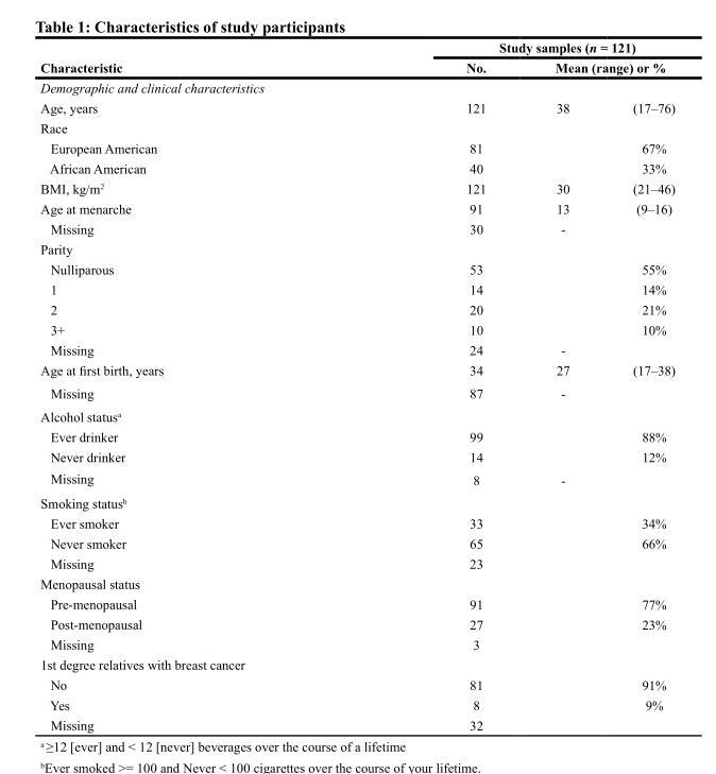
<table><thead><tr><td rowspan="3">Characteristic Demographic and clinical characteristics</td><td colspan="3">Study samples (n = 121)</td></tr><tr><td rowspan="2">No.</td><td colspan="2">Mean (range) or %</td></tr><tr><td></td><td></td></tr></thead><tbody><tr><td>Age, years</td><td>121</td><td>38</td><td>(17–76)</td></tr><tr><td colspan="4">Race</td></tr><tr><td>European American</td><td>81</td><td></td><td>67%</td></tr><tr><td>African American</td><td>40</td><td></td><td>33%</td></tr><tr><td>BMI, kg/m<sup>2</sup></td><td>121</td><td>30</td><td>(21–46)</td></tr><tr><td>Age at menarche</td><td>91</td><td>13</td><td>(9–16)</td></tr><tr><td>Missing</td><td>30</td><td>-</td><td></td></tr><tr><td colspan="4">Parity</td></tr><tr><td>Nulliparous</td><td>53</td><td></td><td>55%</td></tr><tr><td>1</td><td>14</td><td></td><td>14%</td></tr><tr><td>2</td><td>20</td><td></td><td>21%</td></tr><tr><td>3+</td><td>10</td><td></td><td>10%</td></tr><tr><td>Missing</td><td>24</td><td>-</td><td></td></tr><tr><td>Age at first birth, years</td><td>34</td><td>27</td><td>(17–38)</td></tr><tr><td>Missing</td><td>87</td><td>-</td><td></td></tr><tr><td colspan="4">Alcohol status<sup>a</sup></td></tr><tr><td>Ever drinker</td><td>99</td><td></td><td>88%</td></tr><tr><td>Never drinker</td><td>14</td><td></td><td>12%</td></tr><tr><td>Missing</td><td>8</td><td>-</td><td></td></tr><tr><td colspan="4">Smoking status<sup>b</sup></td></tr><tr><td>Ever smoker</td><td>33</td><td></td><td>34%</td></tr><tr><td>Never smoker</td><td>65</td><td></td><td>66%</td></tr><tr><td>Missing</td><td>23</td><td></td><td></td></tr><tr><td colspan="4">Menopausal status</td></tr><tr><td>Pre-menopausal</td><td>91</td><td></td><td>77%</td></tr><tr><td>Post-menopausal</td><td>27</td><td></td><td>23%</td></tr><tr><td>Missing</td><td>3</td><td></td><td></td></tr><tr><td colspan="4">1st degree relatives with breast cancer</td></tr><tr><td>No</td><td>81</td><td></td><td>91%</td></tr><tr><td>Yes</td><td>8</td><td></td><td>9%</td></tr><tr><td>Missing</td><td>32</td><td></td><td></td></tr></tbody></table>